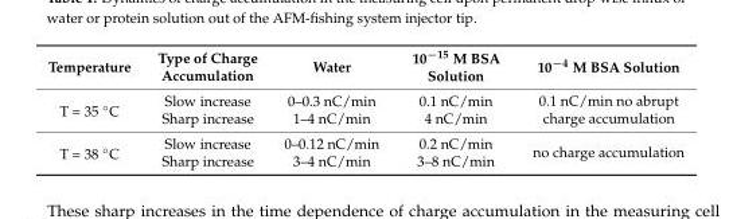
<table><thead><tr><td>Temperature</td><td>Type of Charge Accumulation</td><td>Water</td><td>10<sup>−15</sup> M BSA Solution</td><td>10<sup>−4</sup> M BSA Solution</td></tr></thead><tbody><tr><td rowspan="2">T = 35 ◦C</td><td>Slow increase</td><td>0–0.3 nC/min</td><td>0.1 nC/min</td><td rowspan="2">0.1 nC/min no abrupt charge accumulation</td></tr><tr><td>Sharp increase</td><td>1–4 nC/min</td><td>4 nC/min</td></tr><tr><td rowspan="2">T = 38 ◦C</td><td>Slow increase</td><td>0–0.12 nC/min</td><td>0.2 nC/min</td><td rowspan="2">no charge accumulation</td></tr><tr><td>Sharp increase</td><td>3–4 nC/min</td><td>3–8 nC/min</td></tr></tbody></table>